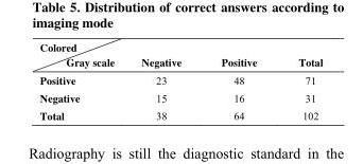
<table><tbody><tr><td>Colored Gray scale</td><td>Negative</td><td>Positive</td><td>Total</td></tr><tr><td>Positive</td><td>23</td><td>48</td><td>71</td></tr><tr><td>Negative</td><td>15</td><td>16</td><td>31</td></tr><tr><td>Total</td><td>38</td><td>64</td><td>102</td></tr></tbody></table>